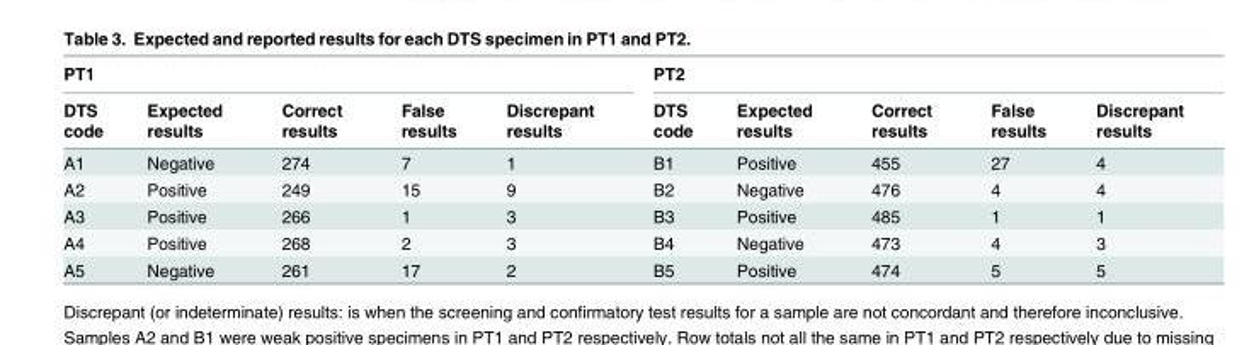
<table><thead><tr><td colspan="5">PT1</td><td colspan="5">PT2</td></tr><tr><td>DTS code</td><td>Expected results</td><td>Correct results</td><td>False results</td><td>Discrepant results</td><td>DTS code</td><td>Expected results</td><td>Correct results</td><td>False results</td><td>Discrepant results</td></tr></thead><tbody><tr><td>A1</td><td>Negative</td><td>274</td><td>7</td><td>1</td><td>B1</td><td>Positive</td><td>455</td><td>27</td><td>4</td></tr><tr><td>A2</td><td>Positive</td><td>249</td><td>15</td><td>9</td><td>B2</td><td>Negative</td><td>476</td><td>4</td><td>4</td></tr><tr><td>A3</td><td>Positive</td><td>266</td><td>1</td><td>3</td><td>B3</td><td>Positive</td><td>485</td><td>1</td><td>1</td></tr><tr><td>A4</td><td>Positive</td><td>268</td><td>2</td><td>3</td><td>B4</td><td>Negative</td><td>473</td><td>4</td><td>3</td></tr><tr><td>A5</td><td>Negative</td><td>261</td><td>17</td><td>2</td><td>B5</td><td>Positive</td><td>474</td><td>5</td><td>5</td></tr></tbody></table>